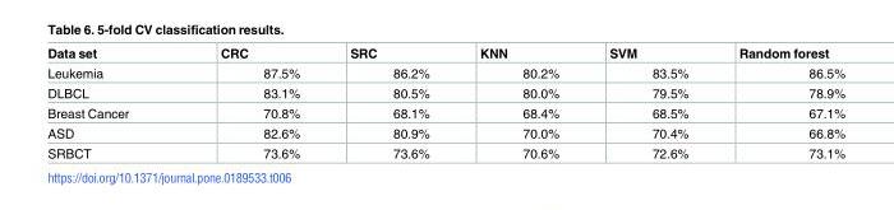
<table><thead><tr><td>Data set</td><td>CRC</td><td>SRC</td><td>KNN</td><td>SVM</td><td>Random forest</td></tr></thead><tbody><tr><td>Leukemia</td><td>87.5%</td><td>86.2%</td><td>80.2%</td><td>83.5%</td><td>86.5%</td></tr><tr><td>DLBCL</td><td>83.1%</td><td>80.5%</td><td>80.0%</td><td>79.5%</td><td>78.9%</td></tr><tr><td>Breast Cancer</td><td>70.8%</td><td>68.1%</td><td>68.4%</td><td>68.5%</td><td>67.1%</td></tr><tr><td>ASD</td><td>82.6%</td><td>80.9%</td><td>70.0%</td><td>70.4%</td><td>66.8%</td></tr><tr><td>SRBCT</td><td>73.6%</td><td>73.6%</td><td>70.6%</td><td>72.6%</td><td>73.1%</td></tr></tbody></table>